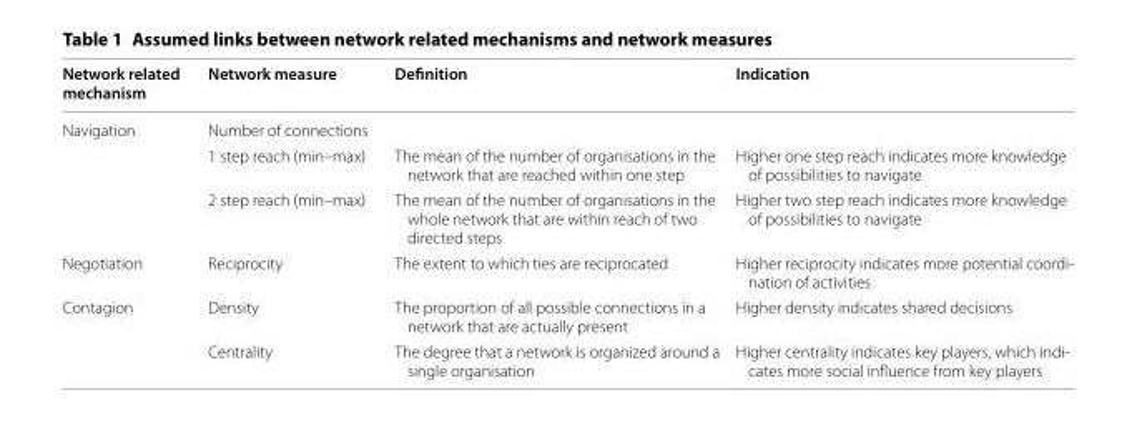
<table><thead><tr><td>Network related mechanism</td><td>Network measure</td><td>Definition</td><td>Indication</td></tr></thead><tbody><tr><td rowspan="3">Navigation</td><td>Number of connections</td><td></td><td></td></tr><tr><td>1 step reach (min–max)</td><td>The mean of the number of organisations in the network that are reached within one step</td><td>Higher one step reach indicates more knowledge of possibilities to navigate</td></tr><tr><td>2 step reach (min–max)</td><td>The mean of the number of organisations in the whole network that are within reach of two directed steps</td><td>Higher two step reach indicates more knowledge of possibilities to navigate</td></tr><tr><td>Negotiation</td><td>Reciprocity</td><td>The extent to which ties are reciprocated</td><td>Higher reciprocity indicates more potential coordi‑ nation of activities</td></tr><tr><td rowspan="2">Contagion</td><td>Density</td><td>The proportion of all possible connections in a network that are actually present</td><td>Higher density indicates shared decisions</td></tr><tr><td>Centrality</td><td>The degree that a network is organized around a single organisation</td><td>Higher centrality indicates key players, which indi‑ cates more social influence from key players</td></tr></tbody></table>